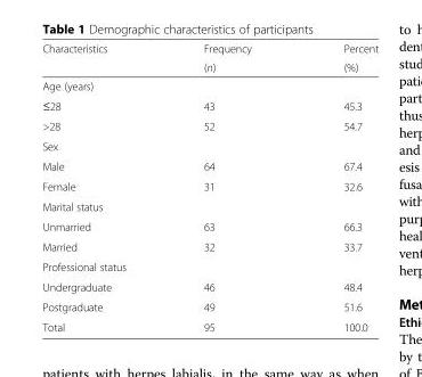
<table><thead><tr><td rowspan="2">Characteristics</td><td rowspan="2">Frequency (n)</td><td rowspan="2">Percent (%)</td></tr><tr></tr></thead><tbody><tr><td colspan="3">Age (years)</td></tr><tr><td>≤28</td><td>43</td><td>45.3</td></tr><tr><td>&gt;28</td><td>52</td><td>54.7</td></tr><tr><td colspan="3">Sex</td></tr><tr><td>Male</td><td>64</td><td>67.4</td></tr><tr><td>Female</td><td>31</td><td>32.6</td></tr><tr><td colspan="3">Marital status</td></tr><tr><td>Unmarried</td><td>63</td><td>66.3</td></tr><tr><td>Married</td><td>32</td><td>33.7</td></tr><tr><td colspan="3">Professional status</td></tr><tr><td>Undergraduate</td><td>46</td><td>48.4</td></tr><tr><td>Postgraduate</td><td>49</td><td>51.6</td></tr><tr><td>Total</td><td>95</td><td>100.0</td></tr></tbody></table>